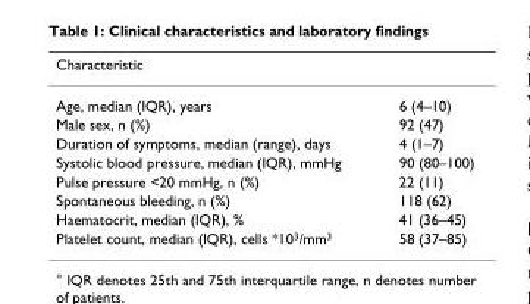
<table><thead><tr><td>Characteristic</td><td></td></tr></thead><tbody><tr><td>Age, median (IQR), years</td><td>6 (4–10)</td></tr><tr><td>Male sex, n (%)</td><td>92 (47)</td></tr><tr><td>Duration of symptoms, median (range), days</td><td>4 (1–7)</td></tr><tr><td>Systolic blood pressure, median (IQR), mmHg</td><td>90 (80–100)</td></tr><tr><td>Pulse pressure &lt;20 mmHg, n (%)</td><td>22 (11)</td></tr><tr><td>Spontaneous bleeding, n (%)</td><td>118 (62)</td></tr><tr><td>Haematocrit, median (IQR), %</td><td>41 (36–45)</td></tr><tr><td>Platelet count, median (IQR), cells *10<sup>3</sup>/mm<sup>3</sup></td><td>58 (37–85)</td></tr></tbody></table>